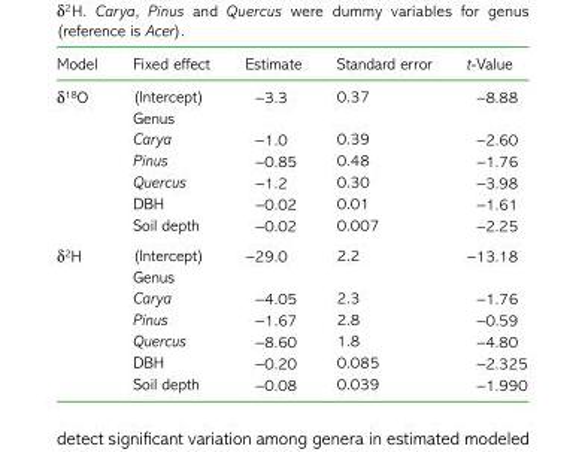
<table><thead><tr><td>Model</td><td>Fixed effect</td><td>Estimate</td><td>Standard error</td><td>t-Value</td></tr></thead><tbody><tr><td rowspan="7">δ<sup>18</sup>O</td><td>(Intercept)</td><td>−3.3</td><td>0.37</td><td>−8.88</td></tr><tr><td>Genus</td><td></td><td></td><td></td></tr><tr><td>Carya</td><td>−1.0</td><td>0.39</td><td>−2.60</td></tr><tr><td>Pinus</td><td>−0.85</td><td>0.48</td><td>−1.76</td></tr><tr><td>Quercus</td><td>−1.2</td><td>0.30</td><td>−3.98</td></tr><tr><td>DBH</td><td>−0.02</td><td>0.01</td><td>−1.61</td></tr><tr><td>Soil depth</td><td>−0.02</td><td>0.007</td><td>−2.25</td></tr><tr><td rowspan="7">δ<sup>2</sup>H</td><td>(Intercept)</td><td>−29.0</td><td>2.2</td><td>−13.18</td></tr><tr><td>Genus</td><td></td><td></td><td></td></tr><tr><td>Carya</td><td>−4.05</td><td>2.3</td><td>−1.76</td></tr><tr><td>Pinus</td><td>−1.67</td><td>2.8</td><td>−0.59</td></tr><tr><td>Quercus</td><td>−8.60</td><td>1.8</td><td>−4.80</td></tr><tr><td>DBH</td><td>−0.20</td><td>0.085</td><td>−2.325</td></tr><tr><td>Soil depth</td><td>−0.08</td><td>0.039</td><td>−1.990</td></tr></tbody></table>